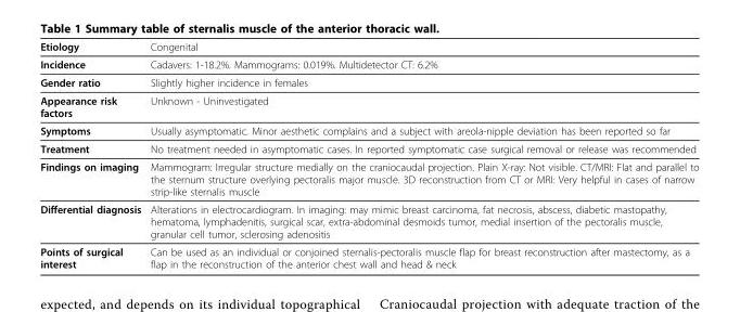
<table><thead><tr><td>Etiology</td><td>Congenital</td></tr></thead><tbody><tr><td>Incidence</td><td>Cadavers: 1-18.2%. Mammograms: 0.019%. Multidetector CT: 6.2%</td></tr><tr><td>Gender ratio</td><td>Slightly higher incidence in females</td></tr><tr><td>Appearance risk factors</td><td>Unknown - Uninvestigated</td></tr><tr><td>Symptoms</td><td>Usually asymptomatic. Minor aesthetic complains and a subject with areola-nipple deviation has been reported so far</td></tr><tr><td>Treatment</td><td>No treatment needed in asymptomatic cases. In reported symptomatic case surgical removal or release was recommended</td></tr><tr><td>Findings on imaging</td><td>Mammogram: Irregular structure medially on the craniocaudal projection. Plain X-ray: Not visible. CT/MRI: Flat and parallel to the sternum structure overlying pectoralis major muscle. 3D reconstruction from CT or MRI: Very helpful in cases of narrow strip-like sternalis muscle</td></tr><tr><td>Differential diagnosis</td><td>Alterations in electrocardiogram. In imaging: may mimic breast carcinoma, fat necrosis, abscess, diabetic mastopathy, hematoma, lymphadenitis, surgical scar, extra-abdominal desmoids tumor, medial insertion of the pectoralis muscle, granular cell tumor, sclerosing adenositis</td></tr><tr><td>Points of surgical interest</td><td>Can be used as an individual or conjoined sternalis-pectoralis muscle flap for breast reconstruction after mastectomy, as a flap in the reconstruction of the anterior chest wall and head &amp; neck</td></tr></tbody></table>